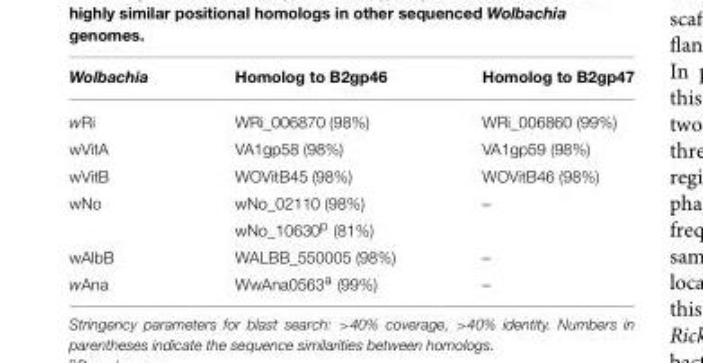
<table><thead><tr><td>Wolbachia</td><td>Homolog to B2gp46</td><td>Homolog to B2gp47</td></tr></thead><tbody><tr><td>wRi</td><td>WRi_006870 (98%)</td><td>WRi_006860 (99%)</td></tr><tr><td>wVitA</td><td>VA1gp58 (98%)</td><td>VA1gp59 (98%)</td></tr><tr><td>wVitB</td><td>WOVitB45 (98%)</td><td>WOVitB46 (98%)</td></tr><tr><td rowspan="2">wNo</td><td>wNo_02110 (98%)</td><td>–</td></tr><tr><td>wNo_10630<sup>p</sup> (81%)</td><td></td></tr><tr><td>wAlbB</td><td>WALBB_550005 (98%)</td><td>–</td></tr><tr><td>wAna</td><td>WwAna0563<sup>a</sup> (99%)</td><td>–</td></tr></tbody></table>